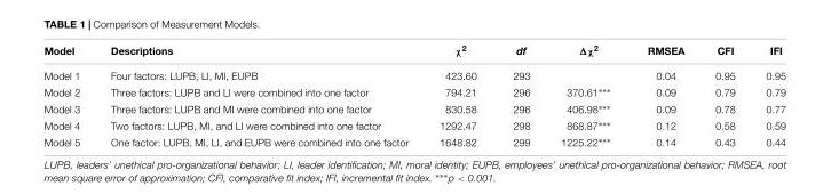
<table><thead><tr><td>Model</td><td>Descriptions</td><td>χ<sup>2</sup></td><td>df</td><td>Δχ<sup>2</sup></td><td>RMSEA</td><td>CFI</td><td>IFI</td></tr></thead><tbody><tr><td>Model 1</td><td>Four factors: LUPB, LI, MI, EUPB</td><td>423.60</td><td>293</td><td></td><td>0.04</td><td>0.95</td><td>0.95</td></tr><tr><td>Model 2</td><td>Three factors: LUPB and LI were combined into one factor</td><td>794.21</td><td>296</td><td>370.61∗∗∗</td><td>0.09</td><td>0.79</td><td>0.79</td></tr><tr><td>Model 3</td><td>Three factors: LUPB and MI were combined into one factor</td><td>830.58</td><td>296</td><td>406.98∗∗∗</td><td>0.09</td><td>0.78</td><td>0.77</td></tr><tr><td>Model 4</td><td>Two factors: LUPB, MI, and LI were combined into one factor</td><td>1292.47</td><td>298</td><td>868.87∗∗∗</td><td>0.12</td><td>0.58</td><td>0.59</td></tr><tr><td>Model 5</td><td>One factor: LUPB, MI, LI, and EUPB were combined into one factor</td><td>1648.82</td><td>299</td><td>1225.22∗∗∗</td><td>0.14</td><td>0.43</td><td>0.44</td></tr></tbody></table>